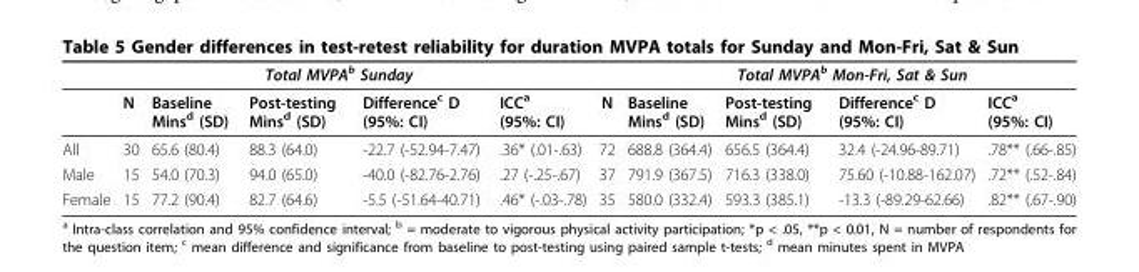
<table><thead><tr><td colspan="7">Total MVPA<sup>b</sup> Sunday</td><td colspan="4">Total MVPA<sup>b</sup> Mon-Fri, Sat &amp; Sun</td></tr><tr><td></td><td>N</td><td>Baseline Mins<sup>d</sup> (SD)</td><td>Post-testing Mins<sup>d</sup> (SD)</td><td>Difference<sup>c</sup> D (95%: CI)</td><td>ICC<sup>a</sup> (95%: CI)</td><td>N</td><td>Baseline Mins<sup>d</sup> (SD)</td><td>Post-testing Mins<sup>d</sup> (SD)</td><td>Difference<sup>c</sup> D (95%: CI)</td><td>ICC<sup>a</sup> (95%: CI)</td></tr></thead><tbody><tr><td>All</td><td>30</td><td>65.6 (80.4)</td><td>88.3 (64.0)</td><td>-22.7 (-52.94-7.47)</td><td>.36* (.01-.63)</td><td>72</td><td>688.8 (364.4)</td><td>656.5 (364.4)</td><td>32.4 (-24.96-89.71)</td><td>.78** (.66-.85)</td></tr><tr><td>Male</td><td>15</td><td>54.0 (70.3)</td><td>94.0 (65.0)</td><td>-40.0 (-82.76-2.76)</td><td>.27 (-.25-.67)</td><td>37</td><td>791.9 (367.5)</td><td>716.3 (338.0)</td><td>75.60 (-10.88-162.07)</td><td>.72** (.52-.84)</td></tr><tr><td>Female</td><td>15</td><td>77.2 (90.4)</td><td>82.7 (64.6)</td><td>-5.5 (-51.64-40.71)</td><td>.46* (-.03-.78)</td><td>35</td><td>580.0 (332.4)</td><td>593.3 (385.1)</td><td>-13.3 (-89.29-62.66)</td><td>.82** (.67-.90)</td></tr></tbody></table>